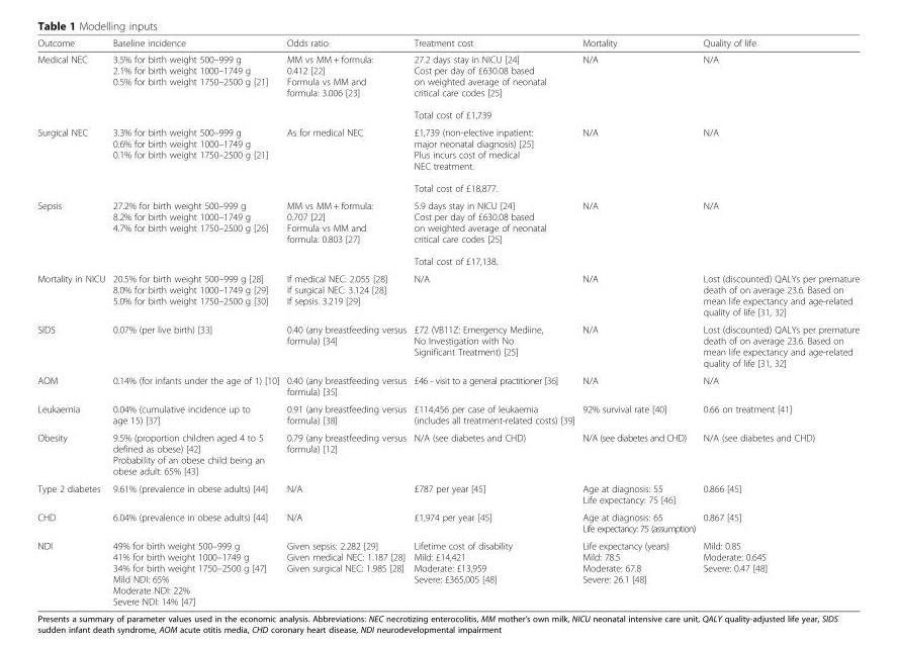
<table><thead><tr><td>Outcome</td><td>Baseline incidence</td><td>Odds ratio</td><td>Treatment cost</td><td>Mortality</td><td>Quality of life</td></tr></thead><tbody><tr><td>Medical NEC</td><td>3.5% for birth weight 500–999 g 2.1% for birth weight 1000–1749 g 0.5% for birth weight 1750–2500 g [21]</td><td>MM vs MM + formula: 0.412 [22] Formula vs MM and formula: 3.006 [23]</td><td>27.2 days stay in NICU [24] Cost per day of £630.08 based on weighted average of neonatal critical care codes [25] Total cost of £1,739</td><td>N/A</td><td>N/A</td></tr><tr><td>Surgical NEC</td><td>3.3% for birth weight 500–999 g 0.6% for birth weight 1000–1749 g 0.1% for birth weight 1750–2500 g [21]</td><td>As for medical NEC</td><td>£1,739 (non-elective inpatient: major neonatal diagnosis) [25] Plus incurs cost of medical NEC treatment. Total cost of £18,877.</td><td>N/A</td><td>N/A</td></tr><tr><td>Sepsis</td><td>27.2% for birth weight 500–999 g 8.2% for birth weight 1000–1749 g 4.7% for birth weight 1750–2500 g [26]</td><td>MM vs MM + formula: 0.707 [22] Formula vs MM and formula: 0.803 [27]</td><td>5.9 days stay in NICU [24] Cost per day of £630.08 based on weighted average of neonatal critical care codes [25] Total cost of £17,138.</td><td>N/A</td><td>N/A</td></tr><tr><td>Mortality in NICU</td><td>20.5% for birth weight 500–999 g [28] 8.0% for birth weight 1000–1749 g [29] 5.0% for birth weight 1750–2500 g [30]</td><td>If medical NEC: 2.055 [28] If surgical NEC: 3.124 [28] If sepsis. 3.219 [29]</td><td>N/A</td><td>N/A</td><td>Lost (discounted) QALYs per premature death of on average 23.6. Based on mean life expectancy and age-related quality of life [31, 32]</td></tr><tr><td>SIDS</td><td>0.07% (per live birth) [33]</td><td>0.40 (any breastfeeding versus formula) [34]</td><td>£72 (VB11Z: Emergency Mediine, No Investigation with No Significant Treatment) [25]</td><td>N/A</td><td>Lost (discounted) QALYs per premature death of on average 23.6. Based on mean life expectancy and age-related quality of life [31, 32]</td></tr><tr><td>AOM</td><td>0.14% (for infants under the age of 1) [10]</td><td>0.40 (any breastfeeding versus formula) [35]</td><td>£46 - visit to a general practitioner [36]</td><td>N/A</td><td>N/A</td></tr><tr><td>Leukaemia</td><td>0.04% (cumulative incidence up to age 15) [37]</td><td>0.91 (any breastfeeding versus formula) [38]</td><td>£114,456 per case of leukaemia (includes all treatment-related costs) [39]</td><td>92% survival rate [40]</td><td>0.66 on treatment [41]</td></tr><tr><td>Obesity</td><td>9.5% (proportion children aged 4 to 5 defined as obese) [42] Probability of an obese child being an obese adult: 65% [43]</td><td>0.79 (any breastfeeding versus formula) [12]</td><td>N/A (see diabetes and CHD)</td><td>N/A (see diabetes and CHD)</td><td>N/A (see diabetes and CHD)</td></tr><tr><td>Type 2 diabetes</td><td>9.61% (prevalence in obese adults) [44]</td><td>N/A</td><td>£787 per year [45]</td><td>Age at diagnosis: 55 Life expectancy: 75 [46]</td><td>0.866 [45]</td></tr><tr><td>CHD</td><td>6.04% (prevalence in obese adults) [44]</td><td>N/A</td><td>£1,974 per year [45]</td><td>Age at diagnosis: 65 Life expectancy: 75 (assumption)</td><td>0.867 [45]</td></tr><tr><td>NDI</td><td>49% for birth weight 500–999 g 41% for birth weight 1000–1749 g 34% for birth weight 1750–2500 g [47] Mild NDI: 65% Moderate NDI: 22% Severe NDI: 14% [47]</td><td>Given sepsis: 2.282 [29] Given medical NEC: 1.187 [28] Given surgical NEC: 1.985 [28]</td><td>Lifetime cost of disability Mild: £14,421 Moderate: £13,959 Severe: £365,005 [48]</td><td>Life expectancy (years) Mild: 78.5 Moderate: 67.8 Severe: 26.1 [48]</td><td>Mild: 0.85 Moderate: 0.645 Severe: 0.47 [48]</td></tr></tbody></table>